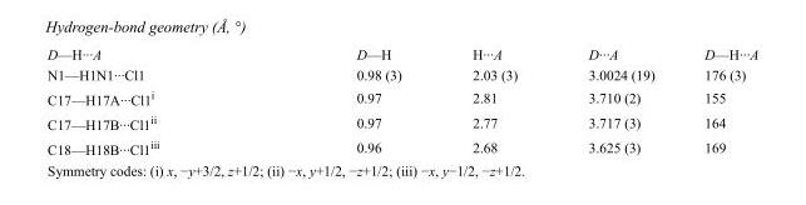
<table><tbody><tr><td>D—H···A</td><td>D—H</td><td>H···A</td><td>D···A</td><td>D—H···A</td></tr><tr><td>N1—H1N1···Cl1</td><td>0.98 (3)</td><td>2.03 (3)</td><td>3.0024 (19)</td><td>176 (3)</td></tr><tr><td>C17—H17A···Cl1<sup>i</sup></td><td>0.97</td><td>2.81</td><td>3.710 (2)</td><td>155</td></tr><tr><td>C17—H17B···Cl1<sup>ii</sup></td><td>0.97</td><td>2.77</td><td>3.717 (3)</td><td>164</td></tr><tr><td>C18—H18B···Cl1<sup>iii</sup></td><td>0.96</td><td>2.68</td><td>3.625 (3)</td><td>169</td></tr></tbody></table>